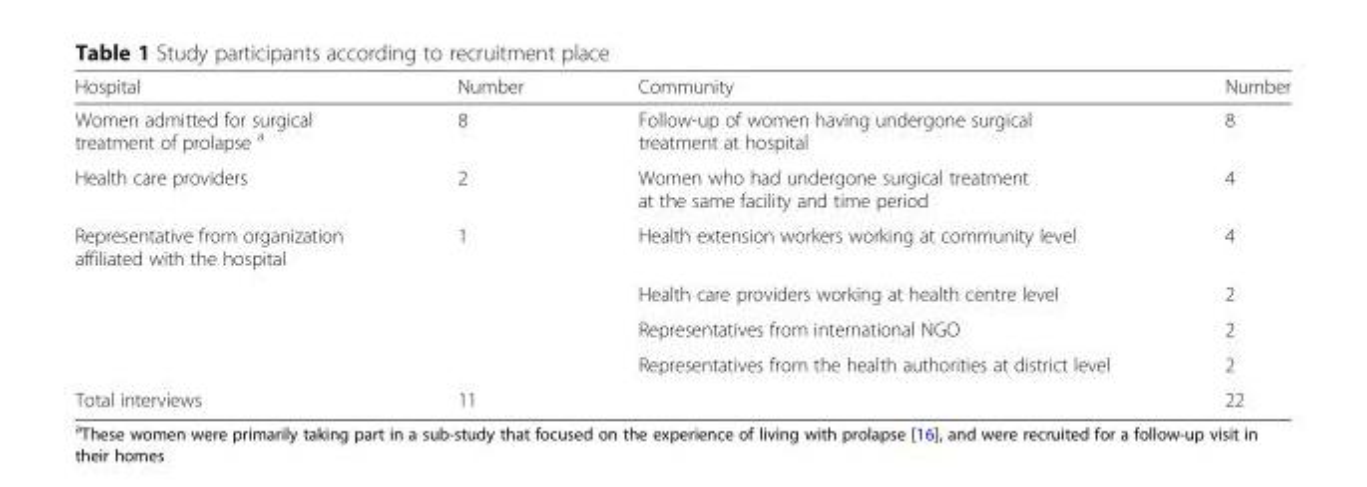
<table><thead><tr><td>Hospital</td><td>Number</td><td>Community</td><td>Number</td></tr></thead><tbody><tr><td>Women admitted for surgical treatment of prolapse <sup>a</sup></td><td>8</td><td>Follow-up of women having undergone surgical treatment at hospital</td><td>8</td></tr><tr><td>Health care providers</td><td>2</td><td>Women who had undergone surgical treatment at the same facility and time period</td><td>4</td></tr><tr><td rowspan="4">Representative from organization affiliated with the hospital</td><td>1</td><td>Health extension workers working at community level</td><td>4</td></tr><tr><td></td><td>Health care providers working at health centre level</td><td>2</td></tr><tr><td></td><td>Representatives from international NGO</td><td>2</td></tr><tr><td></td><td>Representatives from the health authorities at district level</td><td>2</td></tr><tr><td>Total interviews</td><td>11</td><td></td><td>22</td></tr></tbody></table>